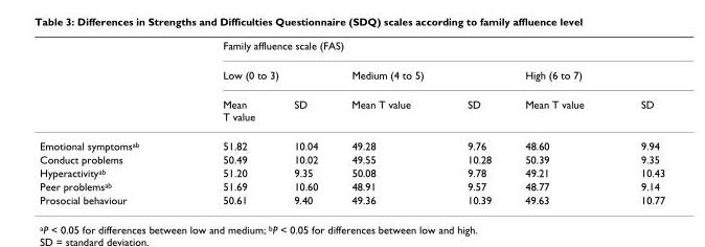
<table><thead><tr><td rowspan="3"></td><td colspan="6">Family affluence scale (FAS)</td></tr><tr><td colspan="2">Low (0 to 3)</td><td colspan="2">Medium (4 to 5)</td><td colspan="2">High (6 to 7)</td></tr><tr><td>Mean T value</td><td>SD</td><td>Mean T value</td><td>SD</td><td>Mean T value</td><td>SD</td></tr></thead><tbody><tr><td>Emotional symptoms<sup>ab</sup></td><td>51.82</td><td>10.04</td><td>49.28</td><td>9.76</td><td>48.60</td><td>9.94</td></tr><tr><td>Conduct problems</td><td>50.49</td><td>10.02</td><td>49.55</td><td>10.28</td><td>50.39</td><td>9.35</td></tr><tr><td>Hyperactivity<sup>ab</sup></td><td>51.20</td><td>9.35</td><td>50.08</td><td>9.78</td><td>49.21</td><td>10.43</td></tr><tr><td>Peer problems<sup>ab</sup></td><td>51.69</td><td>10.60</td><td>48.91</td><td>9.57</td><td>48.77</td><td>9.14</td></tr><tr><td>Prosocial behaviour</td><td>50.61</td><td>9.40</td><td>49.36</td><td>10.39</td><td>49.63</td><td>10.77</td></tr></tbody></table>